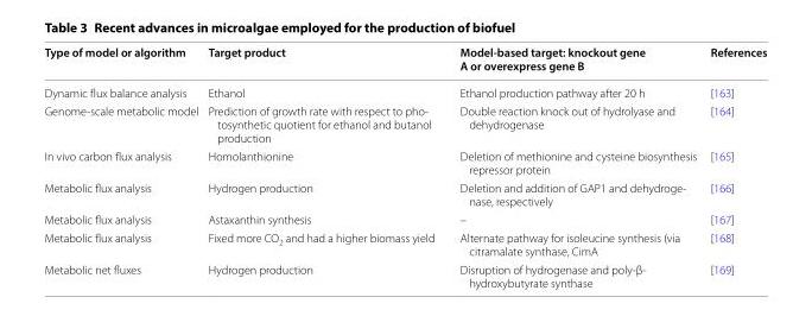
<table><thead><tr><td>Type of model or algorithm</td><td>Target product</td><td>Model‑based target: knockout gene A or overexpress gene B</td><td>References</td></tr></thead><tbody><tr><td>Dynamic flux balance analysis</td><td>Ethanol</td><td>Ethanol production pathway after 20 h</td><td>[163]</td></tr><tr><td>Genome-scale metabolic model</td><td>Prediction of growth rate with respect to pho- tosynthetic quotient for ethanol and butanol production</td><td>Double reaction knock out of hydrolyase and dehydrogenase</td><td>[164]</td></tr><tr><td>In vivo carbon flux analysis</td><td>Homolanthionine</td><td>Deletion of methionine and cysteine biosynthesis repressor protein</td><td>[165]</td></tr><tr><td>Metabolic flux analysis</td><td>Hydrogen production</td><td>Deletion and addition of GAP1 and dehydroge- nase, respectively</td><td>[166]</td></tr><tr><td>Metabolic flux analysis</td><td>Astaxanthin synthesis</td><td>–</td><td>[167]</td></tr><tr><td>Metabolic flux analysis</td><td>Fixed more CO<sub>2</sub> and had a higher biomass yield</td><td>Alternate pathway for isoleucine synthesis (via citramalate synthase, CimA</td><td>[168]</td></tr><tr><td>Metabolic net fluxes</td><td>Hydrogen production</td><td>Disruption of hydrogenase and poly-β- hydroxybutyrate synthase</td><td>[169]</td></tr></tbody></table>